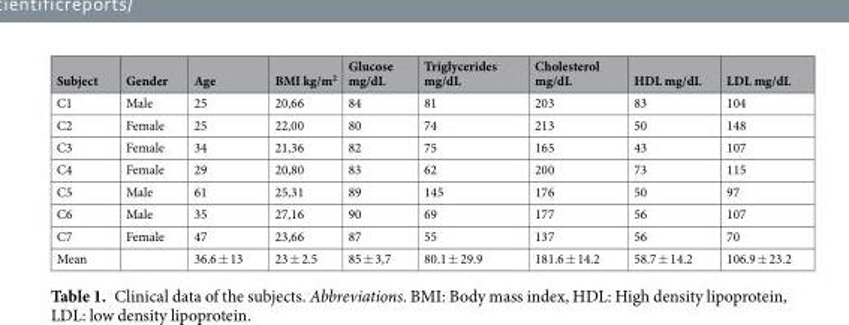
<table><thead><tr><td>Subject</td><td>Gender</td><td>Age</td><td>BMI kg/m<sup>2</sup></td><td>Glucose mg/dL</td><td>Triglycerides mg/dL</td><td>Cholesterol mg/dL</td><td>HDL mg/dL</td><td>LDL mg/dL</td></tr></thead><tbody><tr><td>C1</td><td>Male</td><td>25</td><td>20,66</td><td>84</td><td>81</td><td>203</td><td>83</td><td>104</td></tr><tr><td>C2</td><td>Female</td><td>25</td><td>22,00</td><td>80</td><td>74</td><td>213</td><td>50</td><td>148</td></tr><tr><td>C3</td><td>Female</td><td>34</td><td>21,36</td><td>82</td><td>75</td><td>165</td><td>43</td><td>107</td></tr><tr><td>C4</td><td>Female</td><td>29</td><td>20,80</td><td>83</td><td>62</td><td>200</td><td>73</td><td>115</td></tr><tr><td>C5</td><td>Male</td><td>61</td><td>25,31</td><td>89</td><td>145</td><td>176</td><td>50</td><td>97</td></tr><tr><td>C6</td><td>Male</td><td>35</td><td>27,16</td><td>90</td><td>69</td><td>177</td><td>56</td><td>107</td></tr><tr><td>C7</td><td>Female</td><td>47</td><td>23,66</td><td>87</td><td>55</td><td>137</td><td>56</td><td>70</td></tr><tr><td>Mean</td><td></td><td>36.6 ± 13</td><td>23 ± 2.5</td><td>85 ± 3,7</td><td>80.1 ± 29.9</td><td>181.6 ± 14.2</td><td>58.7 ± 14.2</td><td>106.9 ± 23.2</td></tr></tbody></table>